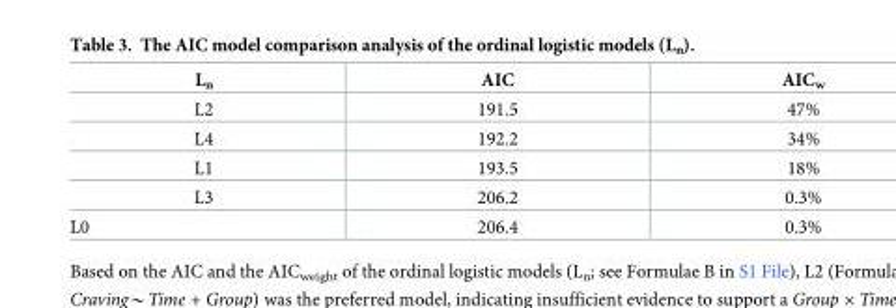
<table><thead><tr><td>L<sub>n</sub></td><td>AIC</td><td>AIC<sub>w</sub></td></tr></thead><tbody><tr><td>L2</td><td>191.5</td><td>47%</td></tr><tr><td>L4</td><td>192.2</td><td>34%</td></tr><tr><td>L1</td><td>193.5</td><td>18%</td></tr><tr><td>L3</td><td>206.2</td><td>0.3%</td></tr><tr><td>L0</td><td>206.4</td><td>0.3%</td></tr></tbody></table>